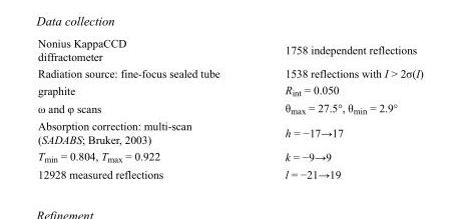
<table><tbody><tr><td>Nonius KappaCCD diffractometer</td><td>1758 independent reflections</td></tr><tr><td>Radiation source: fine-focus sealed tube</td><td>1538 reflections with I &gt; 2σ(I)</td></tr><tr><td>graphite</td><td>R<sub>int</sub> = 0.050</td></tr><tr><td>ω and φ scans</td><td>θ<sub>max</sub> = 27.5°, θ<sub>min</sub> = 2.9°</td></tr><tr><td>Absorption correction: multi-scan (SADABS; Bruker, 2003)</td><td>h = −17→17</td></tr><tr><td>T<sub>min</sub> = 0.804, T<sub>max</sub> = 0.922</td><td>k = −9→9</td></tr><tr><td>12928 measured reflections</td><td>l = −21→19</td></tr></tbody></table>